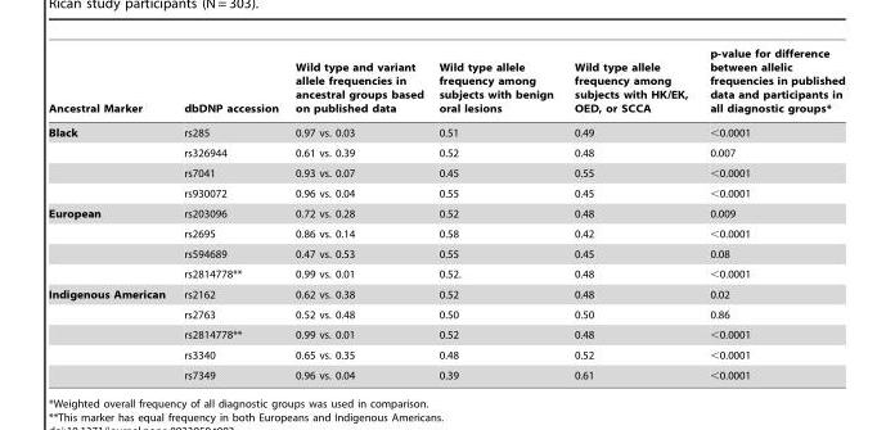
<table><thead><tr><td>Ancestral Marker</td><td>dbDNP accession</td><td>Wild type and variant allele frequencies in ancestral groups based on published data</td><td>Wild type allele frequency among subjects with benign oral lesions</td><td>Wild type allele frequency among subjects with HK/EK, OED, or SCCA</td><td>p-value for difference between allelic frequencies in published data and participants in all diagnostic groups*</td></tr></thead><tbody><tr><td rowspan="4">Black</td><td>rs285</td><td>0.97 vs. 0.03</td><td>0.51</td><td>0.49</td><td>&lt;0.0001</td></tr><tr><td>rs326944</td><td>0.61 vs. 0.39</td><td>0.52</td><td>0.48</td><td>0.007</td></tr><tr><td>rs7041</td><td>0.93 vs. 0.07</td><td>0.45</td><td>0.55</td><td>&lt;0.0001</td></tr><tr><td>rs930072</td><td>0.96 vs. 0.04</td><td>0.55</td><td>0.45</td><td>&lt;0.0001</td></tr><tr><td rowspan="4">European</td><td>rs203096</td><td>0.72 vs. 0.28</td><td>0.52</td><td>0.48</td><td>0.009</td></tr><tr><td>rs2695</td><td>0.86 vs. 0.14</td><td>0.58</td><td>0.42</td><td>&lt;0.0001</td></tr><tr><td>rs594689</td><td>0.47 vs. 0.53</td><td>0.55</td><td>0.45</td><td>0.08</td></tr><tr><td>rs2814778**</td><td>0.99 vs. 0.01</td><td>0.52.</td><td>0.48</td><td>&lt;0.0001</td></tr><tr><td rowspan="5">Indigenous American</td><td>rs2162</td><td>0.62 vs. 0.38</td><td>0.52</td><td>0.48</td><td>0.02</td></tr><tr><td>rs2763</td><td>0.52 vs. 0.48</td><td>0.50</td><td>0.50</td><td>0.86</td></tr><tr><td>rs2814778**</td><td>0.99 vs. 0.01</td><td>0.52</td><td>0.48</td><td>&lt;0.0001</td></tr><tr><td>rs3340</td><td>0.65 vs. 0.35</td><td>0.48</td><td>0.52</td><td>&lt;0.0001</td></tr><tr><td>rs7349</td><td>0.96 vs. 0.04</td><td>0.39</td><td>0.61</td><td>&lt;0.0001</td></tr></tbody></table>